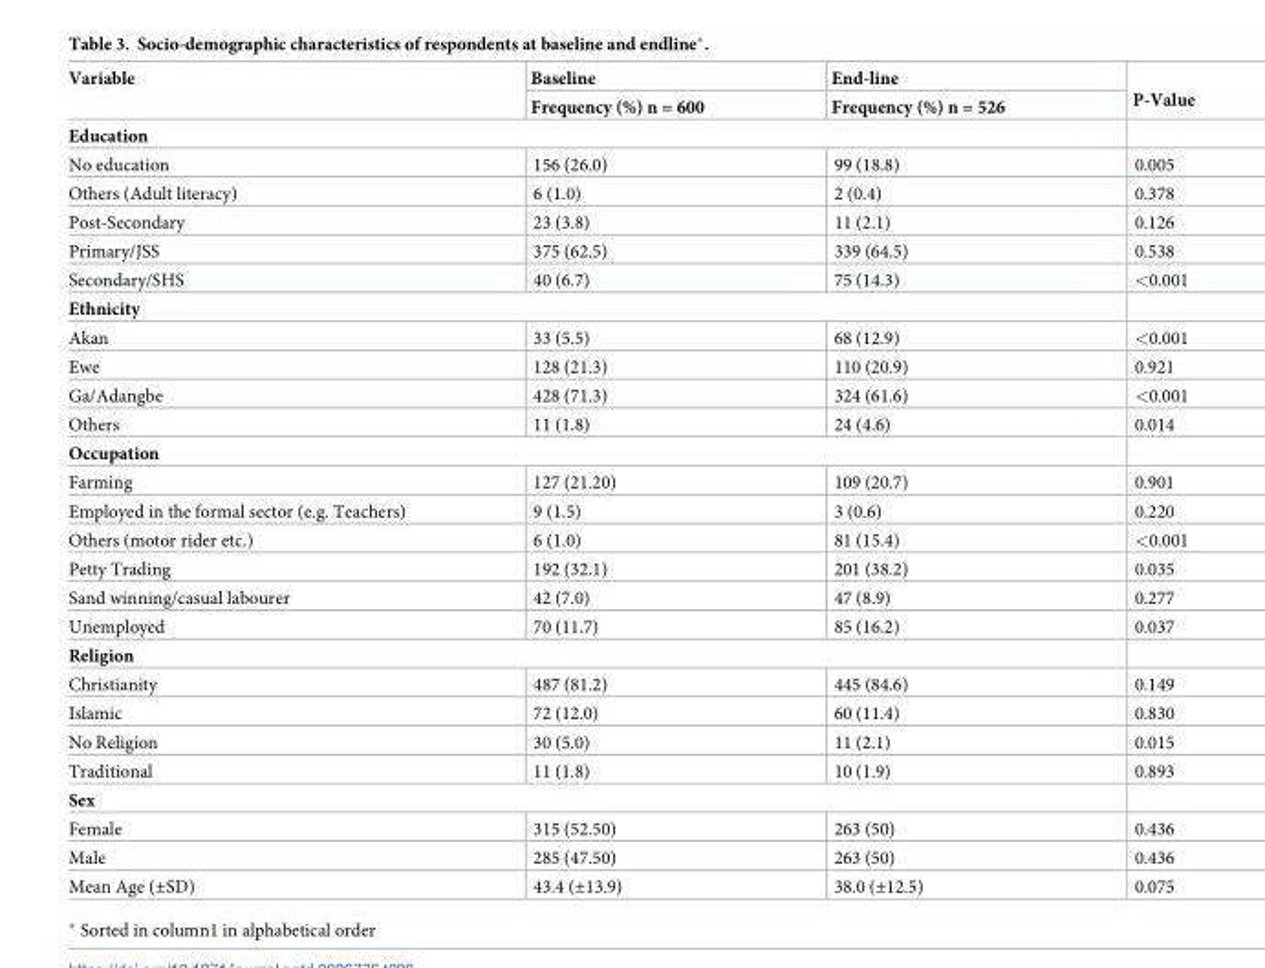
<table><thead><tr><td rowspan="2">Variable</td><td rowspan="2">Baseline Frequency (%) n = 600</td><td rowspan="2">End-line Frequency (%) n = 526</td><td rowspan="2">P-Value</td></tr><tr></tr></thead><tbody><tr><td colspan="4">Education</td></tr><tr><td>No education</td><td>156 (26.0)</td><td>99 (18.8)</td><td>0.005</td></tr><tr><td>Others (Adult literacy)</td><td>6 (1.0)</td><td>2 (0.4)</td><td>0.378</td></tr><tr><td>Post-Secondary</td><td>23 (3.8)</td><td>11 (2.1)</td><td>0.126</td></tr><tr><td>Primary/JSS</td><td>375 (62.5)</td><td>339 (64.5)</td><td>0.538</td></tr><tr><td>Secondary/SHS</td><td>40 (6.7)</td><td>75 (14.3)</td><td>&lt;0.001</td></tr><tr><td colspan="4">Ethnicity</td></tr><tr><td>Akan</td><td>33 (5.5)</td><td>68 (12.9)</td><td>&lt;0.001</td></tr><tr><td>Ewe</td><td>128 (21.3)</td><td>110 (20.9)</td><td>0.921</td></tr><tr><td>Ga/Adangbe</td><td>428 (71.3)</td><td>324 (61.6)</td><td>&lt;0.001</td></tr><tr><td>Others</td><td>11 (1.8)</td><td>24 (4.6)</td><td>0.014</td></tr><tr><td colspan="4">Occupation</td></tr><tr><td>Farming</td><td>127 (21.20)</td><td>109 (20.7)</td><td>0.901</td></tr><tr><td>Employed in the formal sector (e.g. Teachers)</td><td>9 (1.5)</td><td>3 (0.6)</td><td>0.220</td></tr><tr><td>Others (motor rider etc.)</td><td>6 (1.0)</td><td>81 (15.4)</td><td>&lt;0.001</td></tr><tr><td>Petty Trading</td><td>192 (32.1)</td><td>201 (38.2)</td><td>0.035</td></tr><tr><td>Sand winning/casual labourer</td><td>42 (7.0)</td><td>47 (8.9)</td><td>0.277</td></tr><tr><td>Unemployed</td><td>70 (11.7)</td><td>85 (16.2)</td><td>0.037</td></tr><tr><td colspan="4">Religion</td></tr><tr><td>Christianity</td><td>487 (81.2)</td><td>445 (84.6)</td><td>0.149</td></tr><tr><td>Islamic</td><td>72 (12.0)</td><td>60 (11.4)</td><td>0.830</td></tr><tr><td>No Religion</td><td>30 (5.0)</td><td>11 (2.1)</td><td>0.015</td></tr><tr><td>Traditional</td><td>11 (1.8)</td><td>10 (1.9)</td><td>0.893</td></tr><tr><td colspan="4">Sex</td></tr><tr><td>Female</td><td>315 (52.50)</td><td>263 (50)</td><td>0.436</td></tr><tr><td>Male</td><td>285 (47.50)</td><td>263 (50)</td><td>0.436</td></tr><tr><td>Mean Age (±SD)</td><td>43.4 (±13.9)</td><td>38.0 (±12.5)</td><td>0.075</td></tr></tbody></table>